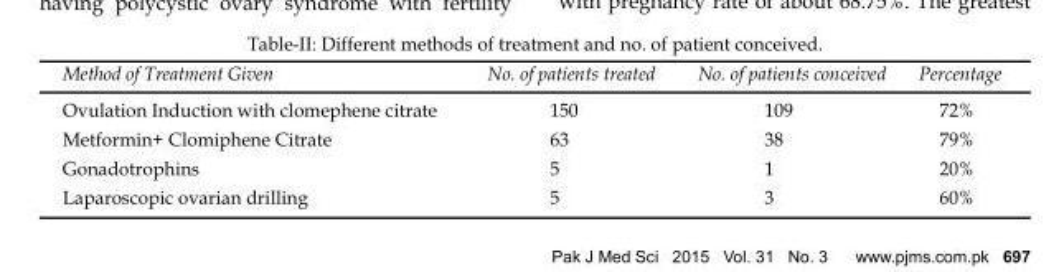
<table><thead><tr><td>Method of Treatment Given</td><td>No. of patients treated</td><td>No. of patients conceived</td><td>Percentage</td></tr></thead><tbody><tr><td>Ovulation Induction with clomephene citrate</td><td>150</td><td>109</td><td>72%</td></tr><tr><td>Metformin+ Clomiphene Citrate</td><td>63</td><td>38</td><td>79%</td></tr><tr><td>Gonadotrophins</td><td>5</td><td>1</td><td>20%</td></tr><tr><td>Laparoscopic ovarian drilling</td><td>5</td><td>3</td><td>60%</td></tr></tbody></table>